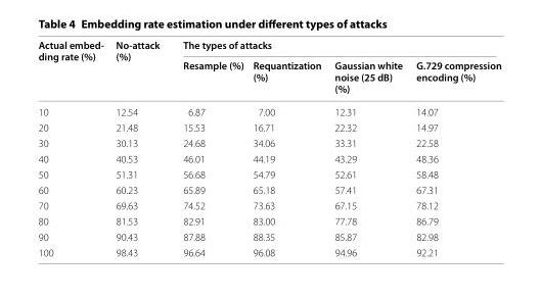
<table><thead><tr><td rowspan="2">Actual embed‑ ding rate (%)</td><td rowspan="2">No‑attack (%)</td><td colspan="4">The types of attacks</td></tr><tr><td>Resample (%)</td><td>Requantization (%)</td><td>Gaussian white noise (25 dB) (%)</td><td>G.729 compression encoding (%)</td></tr></thead><tbody><tr><td>10</td><td>12.54</td><td>6.87</td><td>7.00</td><td>12.31</td><td>14.07</td></tr><tr><td>20</td><td>21.48</td><td>15.53</td><td>16.71</td><td>22.32</td><td>14.97</td></tr><tr><td>30</td><td>30.13</td><td>24.68</td><td>34.06</td><td>33.31</td><td>22.58</td></tr><tr><td>40</td><td>40.53</td><td>46.01</td><td>44.19</td><td>43.29</td><td>48.36</td></tr><tr><td>50</td><td>51.31</td><td>56.68</td><td>54.79</td><td>52.61</td><td>58.48</td></tr><tr><td>60</td><td>60.23</td><td>65.89</td><td>65.18</td><td>57.41</td><td>67.31</td></tr><tr><td>70</td><td>69.63</td><td>74.52</td><td>73.63</td><td>67.15</td><td>78.12</td></tr><tr><td>80</td><td>81.53</td><td>82.91</td><td>83.00</td><td>77.78</td><td>86.79</td></tr><tr><td>90</td><td>90.43</td><td>87.88</td><td>88.35</td><td>85.87</td><td>82.98</td></tr><tr><td>100</td><td>98.43</td><td>96.64</td><td>96.08</td><td>94.96</td><td>92.21</td></tr></tbody></table>